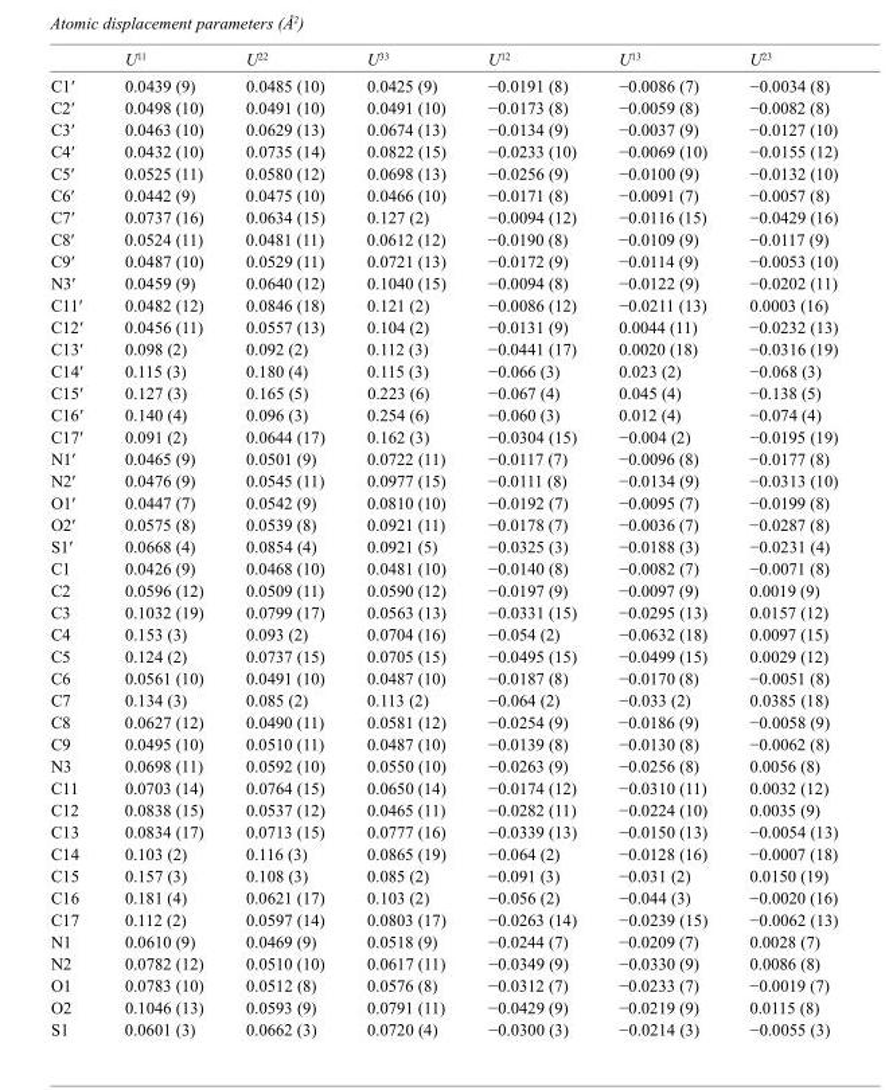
<table><thead><tr><td></td><td>U<sup>11</sup></td><td>U<sup>22</sup></td><td>U<sup>33</sup></td><td>U<sup>12</sup></td><td>U<sup>13</sup></td><td>U<sup>23</sup></td></tr></thead><tbody><tr><td>C1′</td><td>0.0439 (9)</td><td>0.0485 (10)</td><td>0.0425 (9)</td><td>−0.0191 (8)</td><td>−0.0086 (7)</td><td>−0.0034 (8)</td></tr><tr><td>C2′</td><td>0.0498 (10)</td><td>0.0491 (10)</td><td>0.0491 (10)</td><td>−0.0173 (8)</td><td>−0.0059 (8)</td><td>−0.0082 (8)</td></tr><tr><td>C3′</td><td>0.0463 (10)</td><td>0.0629 (13)</td><td>0.0674 (13)</td><td>−0.0134 (9)</td><td>−0.0037 (9)</td><td>−0.0127 (10)</td></tr><tr><td>C4′</td><td>0.0432 (10)</td><td>0.0735 (14)</td><td>0.0822 (15)</td><td>−0.0233 (10)</td><td>−0.0069 (10)</td><td>−0.0155 (12)</td></tr><tr><td>C5′</td><td>0.0525 (11)</td><td>0.0580 (12)</td><td>0.0698 (13)</td><td>−0.0256 (9)</td><td>−0.0100 (9)</td><td>−0.0132 (10)</td></tr><tr><td>C6′</td><td>0.0442 (9)</td><td>0.0475 (10)</td><td>0.0466 (10)</td><td>−0.0171 (8)</td><td>−0.0091 (7)</td><td>−0.0057 (8)</td></tr><tr><td>C7′</td><td>0.0737 (16)</td><td>0.0634 (15)</td><td>0.127 (2)</td><td>−0.0094 (12)</td><td>−0.0116 (15)</td><td>−0.0429 (16)</td></tr><tr><td>C8′</td><td>0.0524 (11)</td><td>0.0481 (11)</td><td>0.0612 (12)</td><td>−0.0190 (8)</td><td>−0.0109 (9)</td><td>−0.0117 (9)</td></tr><tr><td>C9′</td><td>0.0487 (10)</td><td>0.0529 (11)</td><td>0.0721 (13)</td><td>−0.0172 (9)</td><td>−0.0114 (9)</td><td>−0.0053 (10)</td></tr><tr><td>N3′</td><td>0.0459 (9)</td><td>0.0640 (12)</td><td>0.1040 (15)</td><td>−0.0094 (8)</td><td>−0.0122 (9)</td><td>−0.0202 (11)</td></tr><tr><td>C11′</td><td>0.0482 (12)</td><td>0.0846 (18)</td><td>0.121 (2)</td><td>−0.0086 (12)</td><td>−0.0211 (13)</td><td>0.0003 (16)</td></tr><tr><td>C12′</td><td>0.0456 (11)</td><td>0.0557 (13)</td><td>0.104 (2)</td><td>−0.0131 (9)</td><td>0.0044 (11)</td><td>−0.0232 (13)</td></tr><tr><td>C13′</td><td>0.098 (2)</td><td>0.092 (2)</td><td>0.112 (3)</td><td>−0.0441 (17)</td><td>0.0020 (18)</td><td>−0.0316 (19)</td></tr><tr><td>C14′</td><td>0.115 (3)</td><td>0.180 (4)</td><td>0.115 (3)</td><td>−0.066 (3)</td><td>0.023 (2)</td><td>−0.068 (3)</td></tr><tr><td>C15′</td><td>0.127 (3)</td><td>0.165 (5)</td><td>0.223 (6)</td><td>−0.067 (4)</td><td>0.045 (4)</td><td>−0.138 (5)</td></tr><tr><td>C16′</td><td>0.140 (4)</td><td>0.096 (3)</td><td>0.254 (6)</td><td>−0.060 (3)</td><td>0.012 (4)</td><td>−0.074 (4)</td></tr><tr><td>C17′</td><td>0.091 (2)</td><td>0.0644 (17)</td><td>0.162 (3)</td><td>−0.0304 (15)</td><td>−0.004 (2)</td><td>−0.0195 (19)</td></tr><tr><td>N1′</td><td>0.0465 (9)</td><td>0.0501 (9)</td><td>0.0722 (11)</td><td>−0.0117 (7)</td><td>−0.0096 (8)</td><td>−0.0177 (8)</td></tr><tr><td>N2′</td><td>0.0476 (9)</td><td>0.0545 (11)</td><td>0.0977 (15)</td><td>−0.0111 (8)</td><td>−0.0134 (9)</td><td>−0.0313 (10)</td></tr><tr><td>O1′</td><td>0.0447 (7)</td><td>0.0542 (9)</td><td>0.0810 (10)</td><td>−0.0192 (7)</td><td>−0.0095 (7)</td><td>−0.0199 (8)</td></tr><tr><td>O2′</td><td>0.0575 (8)</td><td>0.0539 (8)</td><td>0.0921 (11)</td><td>−0.0178 (7)</td><td>−0.0036 (7)</td><td>−0.0287 (8)</td></tr><tr><td>S1′</td><td>0.0668 (4)</td><td>0.0854 (4)</td><td>0.0921 (5)</td><td>−0.0325 (3)</td><td>−0.0188 (3)</td><td>−0.0231 (4)</td></tr><tr><td>C1</td><td>0.0426 (9)</td><td>0.0468 (10)</td><td>0.0481 (10)</td><td>−0.0140 (8)</td><td>−0.0082 (7)</td><td>−0.0071 (8)</td></tr><tr><td>C2</td><td>0.0596 (12)</td><td>0.0509 (11)</td><td>0.0590 (12)</td><td>−0.0197 (9)</td><td>−0.0097 (9)</td><td>0.0019 (9)</td></tr><tr><td>C3</td><td>0.1032 (19)</td><td>0.0799 (17)</td><td>0.0563 (13)</td><td>−0.0331 (15)</td><td>−0.0295 (13)</td><td>0.0157 (12)</td></tr><tr><td>C4</td><td>0.153 (3)</td><td>0.093 (2)</td><td>0.0704 (16)</td><td>−0.054 (2)</td><td>−0.0632 (18)</td><td>0.0097 (15)</td></tr><tr><td>C5</td><td>0.124 (2)</td><td>0.0737 (15)</td><td>0.0705 (15)</td><td>−0.0495 (15)</td><td>−0.0499 (15)</td><td>0.0029 (12)</td></tr><tr><td>C6</td><td>0.0561 (10)</td><td>0.0491 (10)</td><td>0.0487 (10)</td><td>−0.0187 (8)</td><td>−0.0170 (8)</td><td>−0.0051 (8)</td></tr><tr><td>C7</td><td>0.134 (3)</td><td>0.085 (2)</td><td>0.113 (2)</td><td>−0.064 (2)</td><td>−0.033 (2)</td><td>0.0385 (18)</td></tr><tr><td>C8</td><td>0.0627 (12)</td><td>0.0490 (11)</td><td>0.0581 (12)</td><td>−0.0254 (9)</td><td>−0.0186 (9)</td><td>−0.0058 (9)</td></tr><tr><td>C9</td><td>0.0495 (10)</td><td>0.0510 (11)</td><td>0.0487 (10)</td><td>−0.0139 (8)</td><td>−0.0130 (8)</td><td>−0.0062 (8)</td></tr><tr><td>N3</td><td>0.0698 (11)</td><td>0.0592 (10)</td><td>0.0550 (10)</td><td>−0.0263 (9)</td><td>−0.0256 (8)</td><td>0.0056 (8)</td></tr><tr><td>C11</td><td>0.0703 (14)</td><td>0.0764 (15)</td><td>0.0650 (14)</td><td>−0.0174 (12)</td><td>−0.0310 (11)</td><td>0.0032 (12)</td></tr><tr><td>C12</td><td>0.0838 (15)</td><td>0.0537 (12)</td><td>0.0465 (11)</td><td>−0.0282 (11)</td><td>−0.0224 (10)</td><td>0.0035 (9)</td></tr><tr><td>C13</td><td>0.0834 (17)</td><td>0.0713 (15)</td><td>0.0777 (16)</td><td>−0.0339 (13)</td><td>−0.0150 (13)</td><td>−0.0054 (13)</td></tr><tr><td>C14</td><td>0.103 (2)</td><td>0.116 (3)</td><td>0.0865 (19)</td><td>−0.064 (2)</td><td>−0.0128 (16)</td><td>−0.0007 (18)</td></tr><tr><td>C15</td><td>0.157 (3)</td><td>0.108 (3)</td><td>0.085 (2)</td><td>−0.091 (3)</td><td>−0.031 (2)</td><td>0.0150 (19)</td></tr><tr><td>C16</td><td>0.181 (4)</td><td>0.0621 (17)</td><td>0.103 (2)</td><td>−0.056 (2)</td><td>−0.044 (3)</td><td>−0.0020 (16)</td></tr><tr><td>C17</td><td>0.112 (2)</td><td>0.0597 (14)</td><td>0.0803 (17)</td><td>−0.0263 (14)</td><td>−0.0239 (15)</td><td>−0.0062 (13)</td></tr><tr><td>N1</td><td>0.0610 (9)</td><td>0.0469 (9)</td><td>0.0518 (9)</td><td>−0.0244 (7)</td><td>−0.0209 (7)</td><td>0.0028 (7)</td></tr><tr><td>N2</td><td>0.0782 (12)</td><td>0.0510 (10)</td><td>0.0617 (11)</td><td>−0.0349 (9)</td><td>−0.0330 (9)</td><td>0.0086 (8)</td></tr><tr><td>O1</td><td>0.0783 (10)</td><td>0.0512 (8)</td><td>0.0576 (8)</td><td>−0.0312 (7)</td><td>−0.0233 (7)</td><td>−0.0019 (7)</td></tr><tr><td>O2</td><td>0.1046 (13)</td><td>0.0593 (9)</td><td>0.0791 (11)</td><td>−0.0429 (9)</td><td>−0.0219 (9)</td><td>0.0115 (8)</td></tr><tr><td>S1</td><td>0.0601 (3)</td><td>0.0662 (3)</td><td>0.0720 (4)</td><td>−0.0300 (3)</td><td>−0.0214 (3)</td><td>−0.0055 (3)</td></tr></tbody></table>